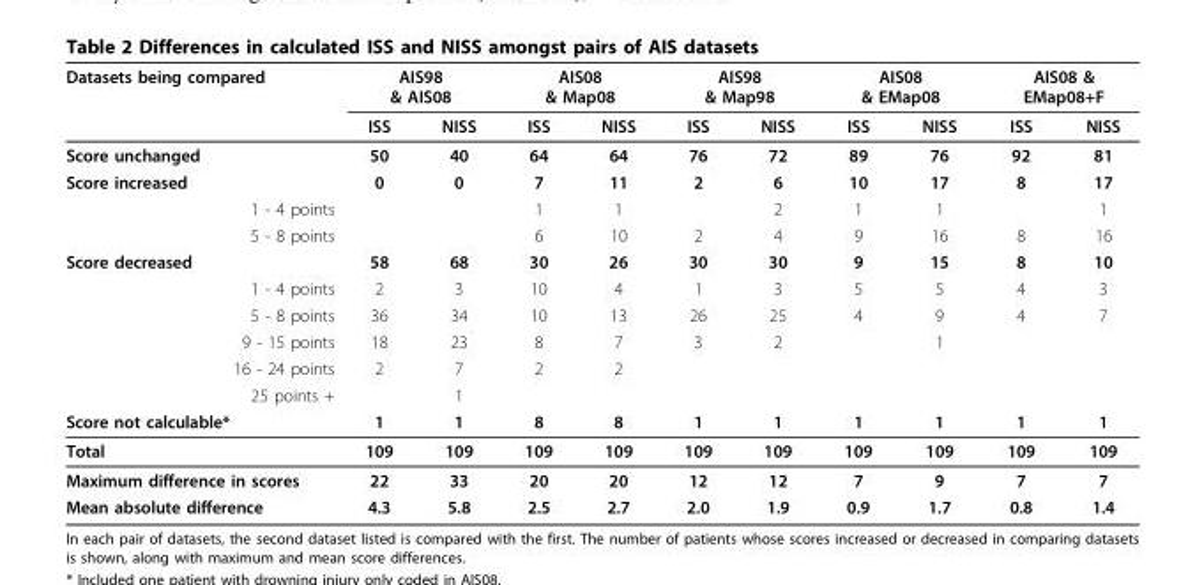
<table><thead><tr><td rowspan="2">Datasets being compared</td><td colspan="2">AIS98 &amp; AIS08</td><td colspan="2">AIS08 &amp; Map08</td><td colspan="2">AIS98 &amp; Map98</td><td colspan="2">AIS08 &amp; EMap08</td><td colspan="2">AIS08 &amp; EMap08+F</td></tr><tr><td>ISS</td><td>NISS</td><td>ISS</td><td>NISS</td><td>ISS</td><td>NISS</td><td>ISS</td><td>NISS</td><td>ISS</td><td>NISS</td></tr></thead><tbody><tr><td>Score unchanged</td><td>50</td><td>40</td><td>64</td><td>64</td><td>76</td><td>72</td><td>89</td><td>76</td><td>92</td><td>81</td></tr><tr><td>Score increased</td><td>0</td><td>0</td><td>7</td><td>11</td><td>2</td><td>6</td><td>10</td><td>17</td><td>8</td><td>17</td></tr><tr><td>1 - 4 points</td><td></td><td></td><td>1</td><td>1</td><td></td><td>2</td><td>1</td><td>1</td><td></td><td>1</td></tr><tr><td>5 - 8 points</td><td></td><td></td><td>6</td><td>10</td><td>2</td><td>4</td><td>9</td><td>16</td><td>8</td><td>16</td></tr><tr><td>Score decreased</td><td>58</td><td>68</td><td>30</td><td>26</td><td>30</td><td>30</td><td>9</td><td>15</td><td>8</td><td>10</td></tr><tr><td>1 - 4 points</td><td>2</td><td>3</td><td>10</td><td>4</td><td>1</td><td>3</td><td>5</td><td>5</td><td>4</td><td>3</td></tr><tr><td>5 - 8 points</td><td>36</td><td>34</td><td>10</td><td>13</td><td>26</td><td>25</td><td>4</td><td>9</td><td>4</td><td>7</td></tr><tr><td>9 - 15 points</td><td>18</td><td>23</td><td>8</td><td>7</td><td>3</td><td>2</td><td></td><td>1</td><td></td><td></td></tr><tr><td>16 - 24 points</td><td>2</td><td>7</td><td>2</td><td>2</td><td></td><td></td><td></td><td></td><td></td><td></td></tr><tr><td>25 points +</td><td></td><td>1</td><td></td><td></td><td></td><td></td><td></td><td></td><td></td><td></td></tr><tr><td>Score not calculable*</td><td>1</td><td>1</td><td>8</td><td>8</td><td>1</td><td>1</td><td>1</td><td>1</td><td>1</td><td>1</td></tr><tr><td>Total</td><td>109</td><td>109</td><td>109</td><td>109</td><td>109</td><td>109</td><td>109</td><td>109</td><td>109</td><td>109</td></tr><tr><td>Maximum difference in scores</td><td>22</td><td>33</td><td>20</td><td>20</td><td>12</td><td>12</td><td>7</td><td>9</td><td>7</td><td>7</td></tr><tr><td>Mean absolute difference</td><td>4.3</td><td>5.8</td><td>2.5</td><td>2.7</td><td>2.0</td><td>1.9</td><td>0.9</td><td>1.7</td><td>0.8</td><td>1.4</td></tr></tbody></table>